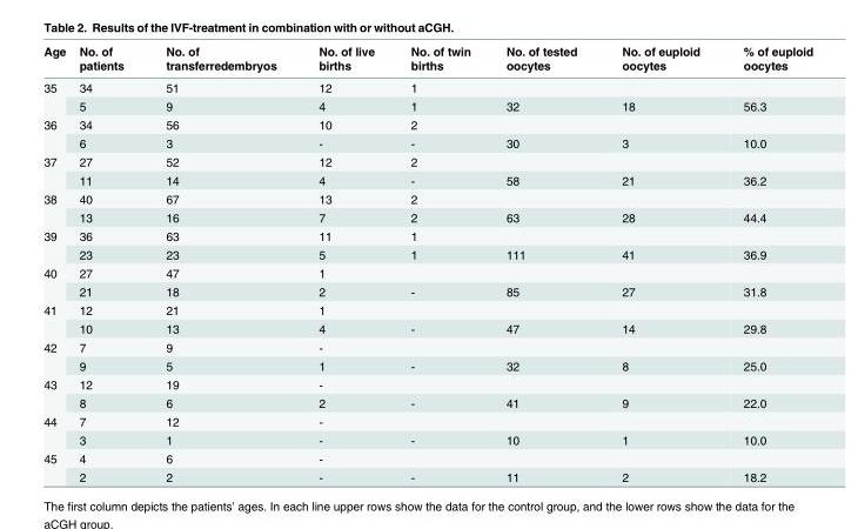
<table><thead><tr><td>Age</td><td>No. of patients</td><td>No. of transferredembryos</td><td>No. of live births</td><td>No. of twin births</td><td>No. of tested oocytes</td><td>No. of euploid oocytes</td><td>% of euploid oocytes</td></tr></thead><tbody><tr><td rowspan="2">35</td><td>34</td><td>51</td><td>12</td><td>1</td><td></td><td></td><td></td></tr><tr><td>5</td><td>9</td><td>4</td><td>1</td><td>32</td><td>18</td><td>56.3</td></tr><tr><td rowspan="2">36</td><td>34</td><td>56</td><td>10</td><td>2</td><td></td><td></td><td></td></tr><tr><td>6</td><td>3</td><td>-</td><td>-</td><td>30</td><td>3</td><td>10.0</td></tr><tr><td rowspan="2">37</td><td>27</td><td>52</td><td>12</td><td>2</td><td></td><td></td><td></td></tr><tr><td>11</td><td>14</td><td>4</td><td>-</td><td>58</td><td>21</td><td>36.2</td></tr><tr><td rowspan="2">38</td><td>40</td><td>67</td><td>13</td><td>2</td><td></td><td></td><td></td></tr><tr><td>13</td><td>16</td><td>7</td><td>2</td><td>63</td><td>28</td><td>44.4</td></tr><tr><td rowspan="2">39</td><td>36</td><td>63</td><td>11</td><td>1</td><td></td><td></td><td></td></tr><tr><td>23</td><td>23</td><td>5</td><td>1</td><td>111</td><td>41</td><td>36.9</td></tr><tr><td rowspan="2">40</td><td>27</td><td>47</td><td>1</td><td></td><td></td><td></td><td></td></tr><tr><td>21</td><td>18</td><td>2</td><td>-</td><td>85</td><td>27</td><td>31.8</td></tr><tr><td rowspan="2">41</td><td>12</td><td>21</td><td>1</td><td></td><td></td><td></td><td></td></tr><tr><td>10</td><td>13</td><td>4</td><td>-</td><td>47</td><td>14</td><td>29.8</td></tr><tr><td rowspan="2">42</td><td>7</td><td>9</td><td>-</td><td></td><td></td><td></td><td></td></tr><tr><td>9</td><td>5</td><td>1</td><td>-</td><td>32</td><td>8</td><td>25.0</td></tr><tr><td rowspan="2">43</td><td>12</td><td>19</td><td>-</td><td></td><td></td><td></td><td></td></tr><tr><td>8</td><td>6</td><td>2</td><td>-</td><td>41</td><td>9</td><td>22.0</td></tr><tr><td rowspan="2">44</td><td>7</td><td>12</td><td>-</td><td></td><td></td><td></td><td></td></tr><tr><td>3</td><td>1</td><td>-</td><td>-</td><td>10</td><td>1</td><td>10.0</td></tr><tr><td rowspan="2">45</td><td>4</td><td>6</td><td>-</td><td></td><td></td><td></td><td></td></tr><tr><td>2</td><td>2</td><td>-</td><td>-</td><td>11</td><td>2</td><td>18.2</td></tr></tbody></table>